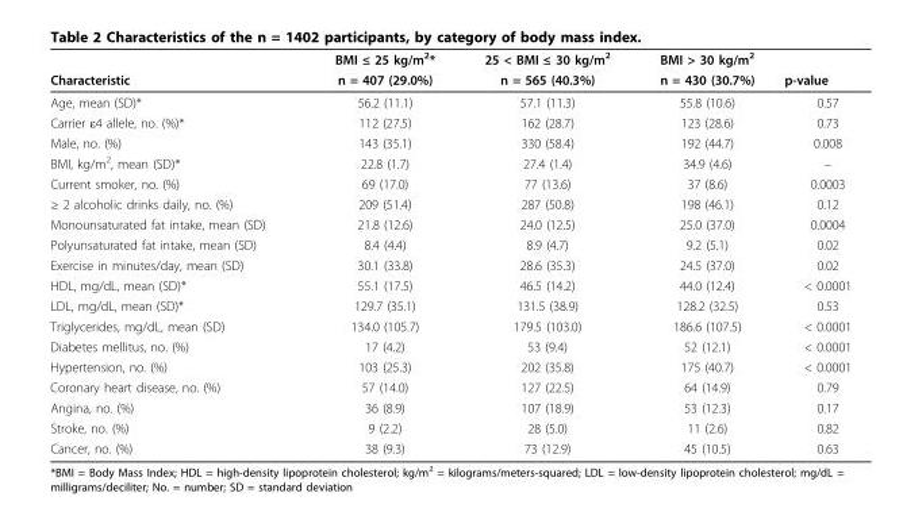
<table><thead><tr><td rowspan="2">Characteristic</td><td rowspan="2">BMI ≤ 25 kg/m<sup>2</sup>* n = 407 (29.0%)</td><td rowspan="2">25 &lt; BMI ≤ 30 kg/m<sup>2</sup> n = 565 (40.3%)</td><td rowspan="2">BMI &gt; 30 kg/m<sup>2</sup> n = 430 (30.7%)</td><td rowspan="2">p-value</td></tr><tr></tr></thead><tbody><tr><td>Age, mean (SD)*</td><td>56.2 (11.1)</td><td>57.1 (11.3)</td><td>55.8 (10.6)</td><td>0.57</td></tr><tr><td>Carrier ε4 allele, no. (%)*</td><td>112 (27.5)</td><td>162 (28.7)</td><td>123 (28.6)</td><td>0.73</td></tr><tr><td>Male, no. (%)</td><td>143 (35.1)</td><td>330 (58.4)</td><td>192 (44.7)</td><td>0.008</td></tr><tr><td>BMI, kg/m<sup>2</sup>, mean (SD)*</td><td>22.8 (1.7)</td><td>27.4 (1.4)</td><td>34.9 (4.6)</td><td>–</td></tr><tr><td>Current smoker, no. (%)</td><td>69 (17.0)</td><td>77 (13.6)</td><td>37 (8.6)</td><td>0.0003</td></tr><tr><td>≥ 2 alcoholic drinks daily, no. (%)</td><td>209 (51.4)</td><td>287 (50.8)</td><td>198 (46.1)</td><td>0.12</td></tr><tr><td>Monounsaturated fat intake, mean (SD)</td><td>21.8 (12.6)</td><td>24.0 (12.5)</td><td>25.0 (37.0)</td><td>0.0004</td></tr><tr><td>Polyunsaturated fat intake, mean (SD)</td><td>8.4 (4.4)</td><td>8.9 (4.7)</td><td>9.2 (5.1)</td><td>0.02</td></tr><tr><td>Exercise in minutes/day, mean (SD)</td><td>30.1 (33.8)</td><td>28.6 (35.3)</td><td>24.5 (37.0)</td><td>0.02</td></tr><tr><td>HDL, mg/dL, mean (SD)*</td><td>55.1 (17.5)</td><td>46.5 (14.2)</td><td>44.0 (12.4)</td><td>&lt; 0.0001</td></tr><tr><td>LDL, mg/dL, mean (SD)*</td><td>129.7 (35.1)</td><td>131.5 (38.9)</td><td>128.2 (32.5)</td><td>0.53</td></tr><tr><td>Triglycerides, mg/dL, mean (SD)</td><td>134.0 (105.7)</td><td>179.5 (103.0)</td><td>186.6 (107.5)</td><td>&lt; 0.0001</td></tr><tr><td>Diabetes mellitus, no. (%)</td><td>17 (4.2)</td><td>53 (9.4)</td><td>52 (12.1)</td><td>&lt; 0.0001</td></tr><tr><td>Hypertension, no. (%)</td><td>103 (25.3)</td><td>202 (35.8)</td><td>175 (40.7)</td><td>&lt; 0.0001</td></tr><tr><td>Coronary heart disease, no. (%)</td><td>57 (14.0)</td><td>127 (22.5)</td><td>64 (14.9)</td><td>0.79</td></tr><tr><td>Angina, no. (%)</td><td>36 (8.9)</td><td>107 (18.9)</td><td>53 (12.3)</td><td>0.17</td></tr><tr><td>Stroke, no. (%)</td><td>9 (2.2)</td><td>28 (5.0)</td><td>11 (2.6)</td><td>0.82</td></tr><tr><td>Cancer, no. (%)</td><td>38 (9.3)</td><td>73 (12.9)</td><td>45 (10.5)</td><td>0.63</td></tr></tbody></table>